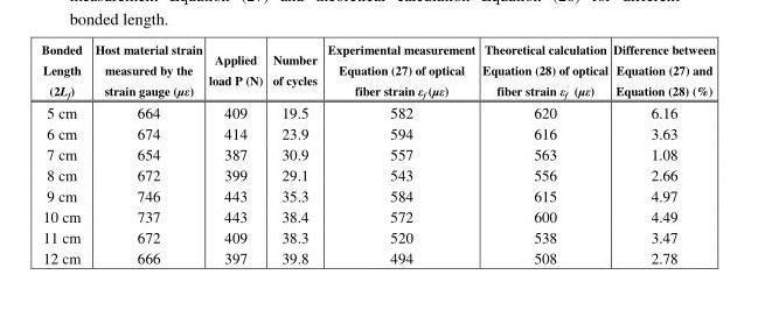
<table><thead><tr><td>Bonded Length (2Lf)</td><td>Host material strain measured by the strain gauge (με)</td><td>Applied load P (N)</td><td>Number of cycles</td><td>Experimental measurement Equation (27) of optical fiber strain εf (με)</td><td>Theoretical calculation Equation (28) of optical fiber strain εf (με)</td><td>Difference between Equation (27) and Equation (28) (%)</td></tr></thead><tbody><tr><td>5 cm</td><td>664</td><td>409</td><td>19.5</td><td>582</td><td>620</td><td>6.16</td></tr><tr><td>6 cm</td><td>674</td><td>414</td><td>23.9</td><td>594</td><td>616</td><td>3.63</td></tr><tr><td>7 cm</td><td>654</td><td>387</td><td>30.9</td><td>557</td><td>563</td><td>1.08</td></tr><tr><td>8 cm</td><td>672</td><td>399</td><td>29.1</td><td>543</td><td>556</td><td>2.66</td></tr><tr><td>9 cm</td><td>746</td><td>443</td><td>35.3</td><td>584</td><td>615</td><td>4.97</td></tr><tr><td>10 cm</td><td>737</td><td>443</td><td>38.4</td><td>572</td><td>600</td><td>4.49</td></tr><tr><td>11 cm</td><td>672</td><td>409</td><td>38.3</td><td>520</td><td>538</td><td>3.47</td></tr><tr><td>12 cm</td><td>666</td><td>397</td><td>39.8</td><td>494</td><td>508</td><td>2.78</td></tr></tbody></table>